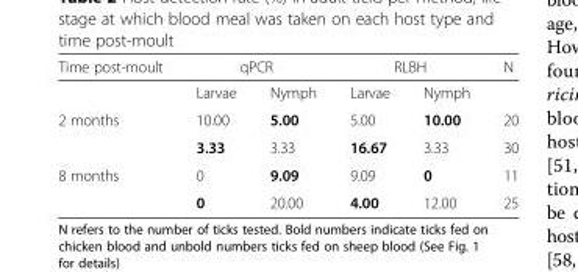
<table><thead><tr><td rowspan="2">Time post-moult</td><td colspan="2">qPCR</td><td colspan="2">RLBH</td><td rowspan="2">N</td></tr><tr><td>Larvae</td><td>Nymph</td><td>Larvae</td><td>Nymph</td></tr></thead><tbody><tr><td rowspan="2">2 months</td><td>10.00</td><td>5.00</td><td>5.00</td><td>10.00</td><td>20</td></tr><tr><td>3.33</td><td>3.33</td><td>16.67</td><td>3.33</td><td>30</td></tr><tr><td rowspan="2">8 months</td><td>0</td><td>9.09</td><td>9.09</td><td>0</td><td>11</td></tr><tr><td>0</td><td>20.00</td><td>4.00</td><td>12.00</td><td>25</td></tr></tbody></table>